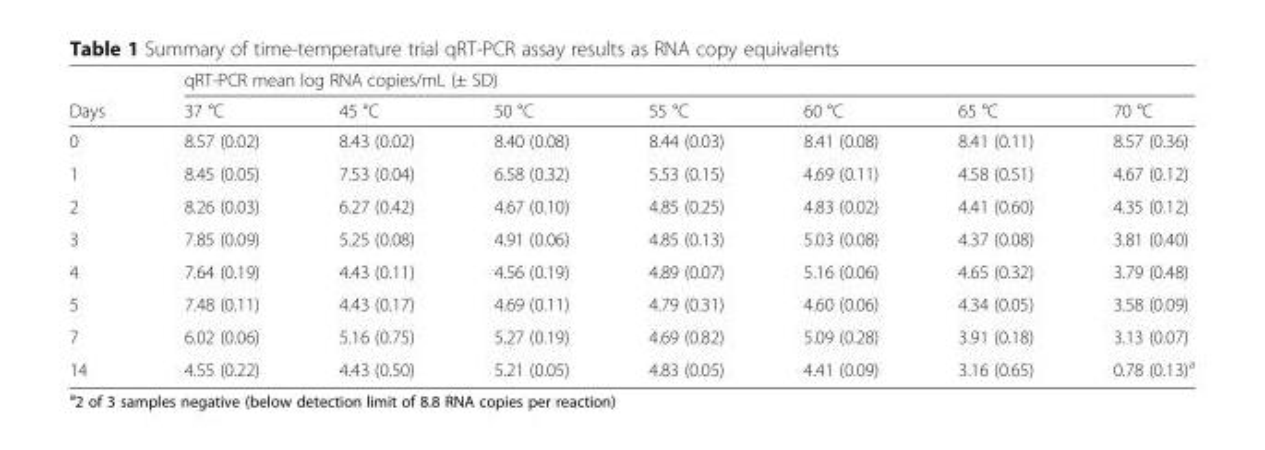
<table><thead><tr><td rowspan="2">Days</td><td colspan="7">qRT-PCR mean log RNA copies/mL (± SD)</td></tr><tr><td>37 °C</td><td>45 °C</td><td>50 °C</td><td>55 °C</td><td>60 °C</td><td>65 °C</td><td>70 °C</td></tr></thead><tbody><tr><td>0</td><td>8.57 (0.02)</td><td>8.43 (0.02)</td><td>8.40 (0.08)</td><td>8.44 (0.03)</td><td>8.41 (0.08)</td><td>8.41 (0.11)</td><td>8.57 (0.36)</td></tr><tr><td>1</td><td>8.45 (0.05)</td><td>7.53 (0.04)</td><td>6.58 (0.32)</td><td>5.53 (0.15)</td><td>4.69 (0.11)</td><td>4.58 (0.51)</td><td>4.67 (0.12)</td></tr><tr><td>2</td><td>8.26 (0.03)</td><td>6.27 (0.42)</td><td>4.67 (0.10)</td><td>4.85 (0.25)</td><td>4.83 (0.02)</td><td>4.41 (0.60)</td><td>4.35 (0.12)</td></tr><tr><td>3</td><td>7.85 (0.09)</td><td>5.25 (0.08)</td><td>4.91 (0.06)</td><td>4.85 (0.13)</td><td>5.03 (0.08)</td><td>4.37 (0.08)</td><td>3.81 (0.40)</td></tr><tr><td>4</td><td>7.64 (0.19)</td><td>4.43 (0.11)</td><td>4.56 (0.19)</td><td>4.89 (0.07)</td><td>5.16 (0.06)</td><td>4.65 (0.32)</td><td>3.79 (0.48)</td></tr><tr><td>5</td><td>7.48 (0.11)</td><td>4.43 (0.17)</td><td>4.69 (0.11)</td><td>4.79 (0.31)</td><td>4.60 (0.06)</td><td>4.34 (0.05)</td><td>3.58 (0.09)</td></tr><tr><td>7</td><td>6.02 (0.06)</td><td>5.16 (0.75)</td><td>5.27 (0.19)</td><td>4.69 (0.82)</td><td>5.09 (0.28)</td><td>3.91 (0.18)</td><td>3.13 (0.07)</td></tr><tr><td>14</td><td>4.55 (0.22)</td><td>4.43 (0.50)</td><td>5.21 (0.05)</td><td>4.83 (0.05)</td><td>4.41 (0.09)</td><td>3.16 (0.65)</td><td>0.78 (0.13)<sup>a</sup></td></tr></tbody></table>